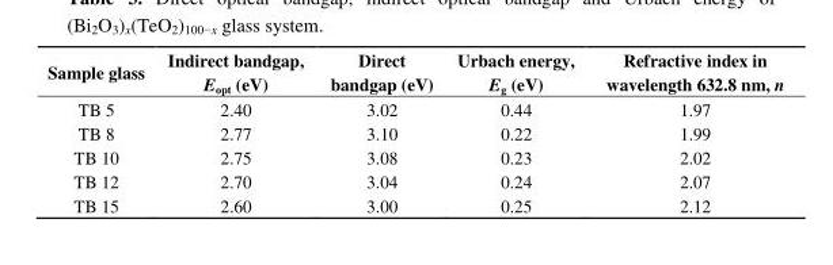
<table><thead><tr><td>Sample glass</td><td>Indirect bandgap, E<sub>opt</sub> (eV)</td><td>Direct bandgap (eV)</td><td>Urbach energy, E<sub>g</sub> (eV)</td><td>Refractive index in wavelength 632.8 nm, n</td></tr></thead><tbody><tr><td>TB 5</td><td>2.40</td><td>3.02</td><td>0.44</td><td>1.97</td></tr><tr><td>TB 8</td><td>2.77</td><td>3.10</td><td>0.22</td><td>1.99</td></tr><tr><td>TB 10</td><td>2.75</td><td>3.08</td><td>0.23</td><td>2.02</td></tr><tr><td>TB 12</td><td>2.70</td><td>3.04</td><td>0.24</td><td>2.07</td></tr><tr><td>TB 15</td><td>2.60</td><td>3.00</td><td>0.25</td><td>2.12</td></tr></tbody></table>